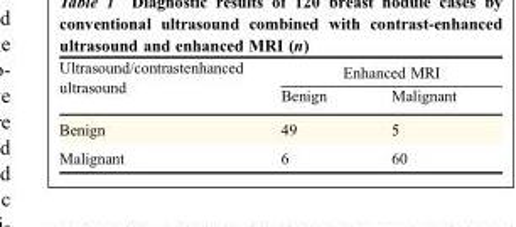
<table><thead><tr><td rowspan="2">Ultrasound/contrastenhanced ultrasound</td><td colspan="2">Enhanced MRI</td></tr><tr><td>Benign</td><td>Malignant</td></tr></thead><tbody><tr><td>Benign</td><td>49</td><td>5</td></tr><tr><td>Malignant</td><td>6</td><td>60</td></tr></tbody></table>